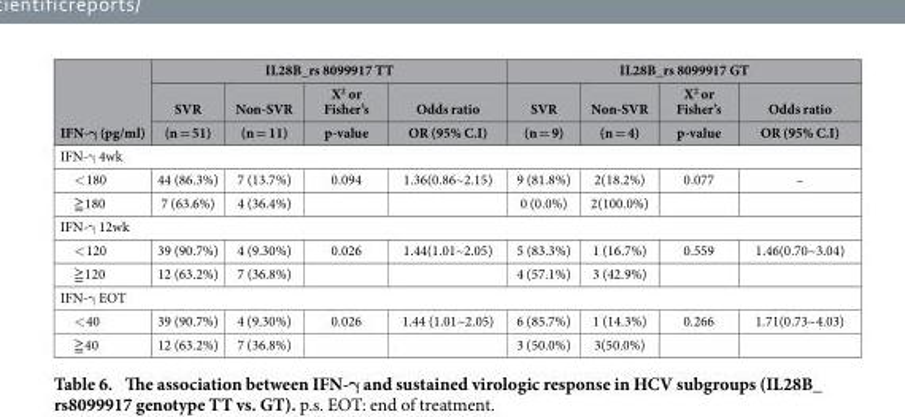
<table><thead><tr><td rowspan="3">IFN-γ (pg/ml)</td><td colspan="4">IL28B_rs 8099917 TT</td><td colspan="4">IL28B_rs 8099917 GT</td></tr><tr><td rowspan="2">SVR (n = 51)</td><td rowspan="2">Non-SVR (n = 11)</td><td rowspan="2">X<sup>2</sup> or Fisher’s p-value</td><td rowspan="2">Odds ratio OR (95% C.I)</td><td rowspan="2">SVR (n = 9)</td><td rowspan="2">Non-SVR (n = 4)</td><td rowspan="2">X<sup>2</sup> or Fisher’s p-value</td><td rowspan="2">Odds ratio OR (95% C.I)</td></tr><tr></tr></thead><tbody><tr><td colspan="9">IFN-γ 4wk</td></tr><tr><td>&lt; 180</td><td>44 (86.3%)</td><td>7 (13.7%)</td><td>0.094</td><td>1.36(0.86~2.15)</td><td>9 (81.8%)</td><td>2(18.2%)</td><td>0.077</td><td>–</td></tr><tr><td>≧ 180</td><td>7 (63.6%)</td><td>4 (36.4%)</td><td></td><td></td><td>0 (0.0%)</td><td>2(100.0%)</td><td></td><td></td></tr><tr><td colspan="9">IFN-γ 12wk</td></tr><tr><td>&lt; 120</td><td>39 (90.7%)</td><td>4 (9.30%)</td><td>0.026</td><td>1.44(1.01~2.05)</td><td>5 (83.3%)</td><td>1 (16.7%)</td><td>0.559</td><td>1.46(0.70~3.04)</td></tr><tr><td>≧ 120</td><td>12 (63.2%)</td><td>7 (36.8%)</td><td></td><td></td><td>4 (57.1%)</td><td>3 (42.9%)</td><td></td><td></td></tr><tr><td colspan="9">IFN-γ EOT</td></tr><tr><td>&lt; 40</td><td>39 (90.7%)</td><td>4 (9.30%)</td><td>0.026</td><td>1.44 (1.01~2.05)</td><td>6 (85.7%)</td><td>1 (14.3%)</td><td>0.266</td><td>1.71(0.73~4.03)</td></tr><tr><td>≧ 40</td><td>12 (63.2%)</td><td>7 (36.8%)</td><td></td><td></td><td>3 (50.0%)</td><td>3(50.0%)</td><td></td><td></td></tr></tbody></table>